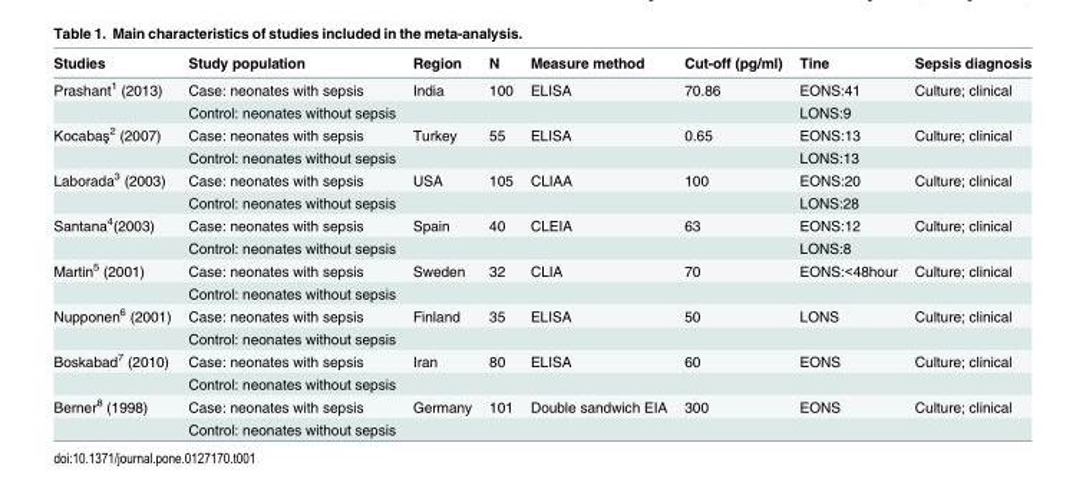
<table><thead><tr><td>Studies</td><td>Study population</td><td>Region</td><td>N</td><td>Measure method</td><td>Cut-off (pg/ml)</td><td>Tine</td><td>Sepsis diagnosis</td></tr></thead><tbody><tr><td rowspan="2">Prashant<sup>1</sup> (2013)</td><td>Case: neonates with sepsis</td><td>India</td><td>100</td><td>ELISA</td><td>70.86</td><td>EONS:41</td><td>Culture; clinical</td></tr><tr><td>Control: neonates without sepsis</td><td></td><td></td><td></td><td></td><td>LONS:9</td><td></td></tr><tr><td rowspan="2">Kocabaş<sup>2</sup> (2007)</td><td>Case: neonates with sepsis</td><td>Turkey</td><td>55</td><td>ELISA</td><td>0.65</td><td>EONS:13</td><td>Culture; clinical</td></tr><tr><td>Control: neonates without sepsis</td><td></td><td></td><td></td><td></td><td>LONS:13</td><td></td></tr><tr><td rowspan="2">Laborada<sup>3</sup> (2003)</td><td>Case: neonates with sepsis</td><td>USA</td><td>105</td><td>CLIAA</td><td>100</td><td>EONS:20</td><td>Culture; clinical</td></tr><tr><td>Control: neonates without sepsis</td><td></td><td></td><td></td><td></td><td>LONS:28</td><td></td></tr><tr><td rowspan="2">Santana<sup>4</sup>(2003)</td><td>Case: neonates with sepsis</td><td>Spain</td><td>40</td><td>CLEIA</td><td>63</td><td>EONS:12</td><td>Culture; clinical</td></tr><tr><td>Control: neonates without sepsis</td><td></td><td></td><td></td><td></td><td>LONS:8</td><td></td></tr><tr><td rowspan="2">Martin<sup>5</sup> (2001)</td><td>Case: neonates with sepsis</td><td>Sweden</td><td>32</td><td>CLIA</td><td>70</td><td>EONS:&lt;48hour</td><td>Culture; clinical</td></tr><tr><td>Control: neonates without sepsis</td><td></td><td></td><td></td><td></td><td></td><td></td></tr><tr><td rowspan="2">Nupponen<sup>6</sup> (2001)</td><td>Case: neonates with sepsis</td><td>Finland</td><td>35</td><td>ELISA</td><td>50</td><td>LONS</td><td>Culture; clinical</td></tr><tr><td>Control: neonates without sepsis</td><td></td><td></td><td></td><td></td><td></td><td></td></tr><tr><td rowspan="2">Boskabad<sup>7</sup> (2010)</td><td>Case: neonates with sepsis</td><td>Iran</td><td>80</td><td>ELISA</td><td>60</td><td>EONS</td><td>Culture; clinical</td></tr><tr><td>Control: neonates without sepsis</td><td></td><td></td><td></td><td></td><td></td><td></td></tr><tr><td rowspan="2">Berner<sup>8</sup> (1998)</td><td>Case: neonates with sepsis</td><td>Germany</td><td>101</td><td>Double sandwich EIA</td><td>300</td><td>EONS</td><td>Culture; clinical</td></tr><tr><td>Control: neonates without sepsis</td><td></td><td></td><td></td><td></td><td></td><td></td></tr></tbody></table>